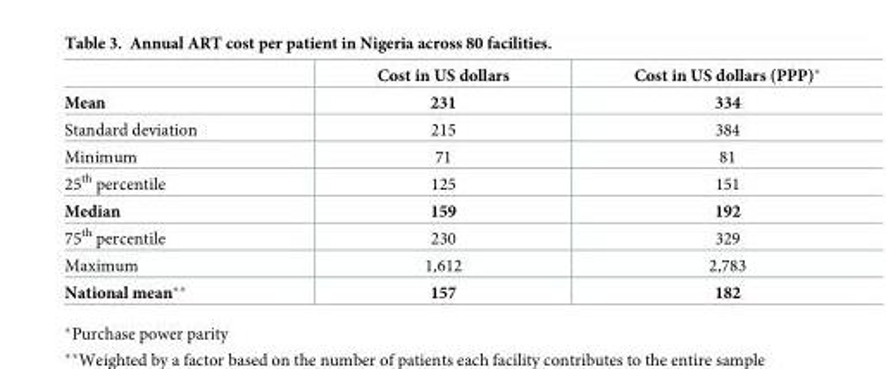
<table><thead><tr><td></td><td>Cost in US dollars</td><td>Cost in US dollars (PPP)*</td></tr></thead><tbody><tr><td>Mean</td><td>231</td><td>334</td></tr><tr><td>Standard deviation</td><td>215</td><td>384</td></tr><tr><td>Minimum</td><td>71</td><td>81</td></tr><tr><td>25<sup>th</sup> percentile</td><td>125</td><td>151</td></tr><tr><td>Median</td><td>159</td><td>192</td></tr><tr><td>75<sup>th</sup> percentile</td><td>230</td><td>329</td></tr><tr><td>Maximum</td><td>1,612</td><td>2,783</td></tr><tr><td>National mean**</td><td>157</td><td>182</td></tr></tbody></table>